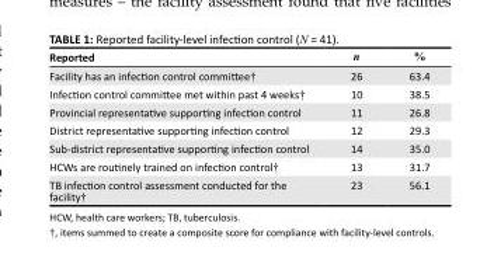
<table><thead><tr><td>Reported</td><td>n</td><td>%</td></tr></thead><tbody><tr><td>Facility has an infection control committee†</td><td>26</td><td>63.4</td></tr><tr><td>Infection control committee met within past 4 weeks†</td><td>10</td><td>38.5</td></tr><tr><td>Provincial representative supporting infection control</td><td>11</td><td>26.8</td></tr><tr><td>District representative supporting infection control</td><td>12</td><td>29.3</td></tr><tr><td>Sub-district representative supporting infection control</td><td>14</td><td>35.0</td></tr><tr><td>HCWs are routinely trained on infection control†</td><td>13</td><td>31.7</td></tr><tr><td>TB infection control assessment conducted for the facility†</td><td>23</td><td>56.1</td></tr></tbody></table>